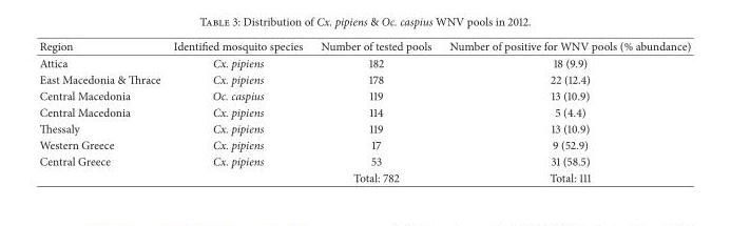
<table><thead><tr><td>Region</td><td>Identified mosquito species</td><td>Number of tested pools</td><td>Number of positive for WNV pools (% abundance)</td></tr></thead><tbody><tr><td>Attica</td><td>Cx. pipiens</td><td>182</td><td>18 (9.9)</td></tr><tr><td>East Macedonia &amp; Thrace</td><td>Cx. pipiens</td><td>178</td><td>22 (12.4)</td></tr><tr><td>Central Macedonia</td><td>Oc. caspius</td><td>119</td><td>13 (10.9)</td></tr><tr><td>Central Macedonia</td><td>Cx. pipiens</td><td>114</td><td>5 (4.4)</td></tr><tr><td>Thessaly</td><td>Cx. pipiens</td><td>119</td><td>13 (10.9)</td></tr><tr><td>Western Greece</td><td>Cx. pipiens</td><td>17</td><td>9 (52.9)</td></tr><tr><td rowspan="2">Central Greece</td><td>Cx. pipiens</td><td>53</td><td>31 (58.5)</td></tr><tr><td></td><td>Total: 782</td><td>Total: 111</td></tr></tbody></table>